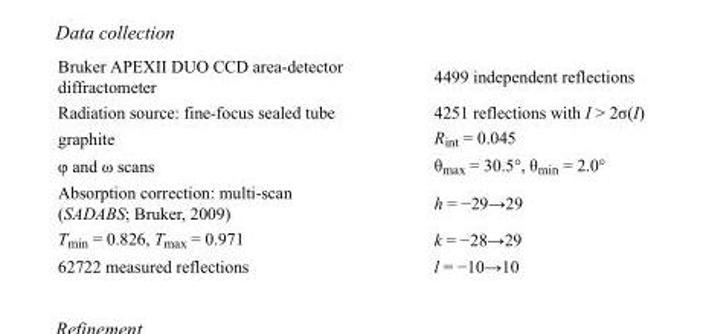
<table><tbody><tr><td>Bruker APEXII DUO CCD area-detector diffractometer</td><td>4499 independent reflections</td></tr><tr><td>Radiation source: fine-focus sealed tube</td><td>4251 reflections with I &gt; 2σ(I)</td></tr><tr><td>graphite</td><td>R<sub>int</sub> = 0.045</td></tr><tr><td>φ and ω scans</td><td>θ<sub>max</sub> = 30.5°, θ<sub>min</sub> = 2.0°</td></tr><tr><td>Absorption correction: multi-scan (SADABS; Bruker, 2009)</td><td>h = −29→29</td></tr><tr><td>T<sub>min</sub> = 0.826, T<sub>max</sub> = 0.971</td><td>k = −28→29</td></tr><tr><td>62722 measured reflections</td><td>l = −10→10</td></tr></tbody></table>